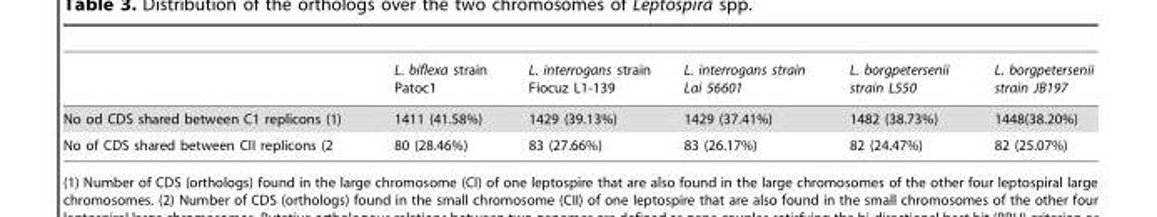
<table><thead><tr><td></td><td>L. biflexa strain Patoc1</td><td>L. interrogans strain Fiocuz L1-139</td><td>L. interrogans strain Lai 56601</td><td>L. borgpetersenii strain L550</td><td>L. borgpetersenii strain JB197</td></tr></thead><tbody><tr><td>No od CDS shared between C1 replicons (1)</td><td>1411 (41.58%)</td><td>1429 (39.13%)</td><td>1429 (37.41%)</td><td>1482 (38.73%)</td><td>1448(38.20%)</td></tr><tr><td>No of CDS shared between CII replicons (2</td><td>80 (28.46%)</td><td>83 (27.66%)</td><td>83 (26.17%)</td><td>82 (24.47%)</td><td>82 (25.07%)</td></tr></tbody></table>